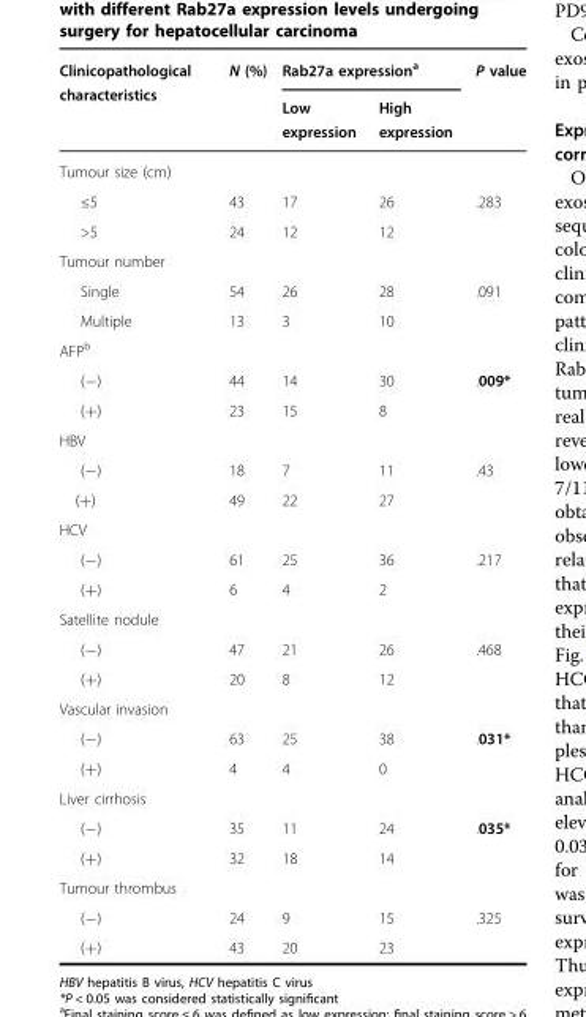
<table><thead><tr><td rowspan="2">Clinicopathological characteristics</td><td rowspan="2">N (%)</td><td colspan="2">Rab27a expression<sup>a</sup></td><td rowspan="2">P value</td></tr><tr><td>Low expression</td><td>High expression</td></tr></thead><tbody><tr><td colspan="5">Tumour size (cm)</td></tr><tr><td>≤5</td><td>43</td><td>17</td><td>26</td><td>.283</td></tr><tr><td>&gt;5</td><td>24</td><td>12</td><td>12</td><td></td></tr><tr><td colspan="5">Tumour number</td></tr><tr><td>Single</td><td>54</td><td>26</td><td>28</td><td>.091</td></tr><tr><td>Multiple</td><td>13</td><td>3</td><td>10</td><td></td></tr><tr><td colspan="5">AFP<sup>b</sup></td></tr><tr><td>(−)</td><td>44</td><td>14</td><td>30</td><td>.009*</td></tr><tr><td>(+)</td><td>23</td><td>15</td><td>8</td><td></td></tr><tr><td colspan="5">HBV</td></tr><tr><td>(−)</td><td>18</td><td>7</td><td>11</td><td>.43</td></tr><tr><td>(+)</td><td>49</td><td>22</td><td>27</td><td></td></tr><tr><td colspan="5">HCV</td></tr><tr><td>(−)</td><td>61</td><td>25</td><td>36</td><td>.217</td></tr><tr><td>(+)</td><td>6</td><td>4</td><td>2</td><td></td></tr><tr><td colspan="5">Satellite nodule</td></tr><tr><td>(−)</td><td>47</td><td>21</td><td>26</td><td>.468</td></tr><tr><td>(+)</td><td>20</td><td>8</td><td>12</td><td></td></tr><tr><td colspan="5">Vascular invasion</td></tr><tr><td>(−)</td><td>63</td><td>25</td><td>38</td><td>.031*</td></tr><tr><td>(+)</td><td>4</td><td>4</td><td>0</td><td></td></tr><tr><td colspan="5">Liver cirrhosis</td></tr><tr><td>(−)</td><td>35</td><td>11</td><td>24</td><td>.035*</td></tr><tr><td>(+)</td><td>32</td><td>18</td><td>14</td><td></td></tr><tr><td colspan="5">Tumour thrombus</td></tr><tr><td>(−)</td><td>24</td><td>9</td><td>15</td><td>.325</td></tr><tr><td>(+)</td><td>43</td><td>20</td><td>23</td><td></td></tr></tbody></table>